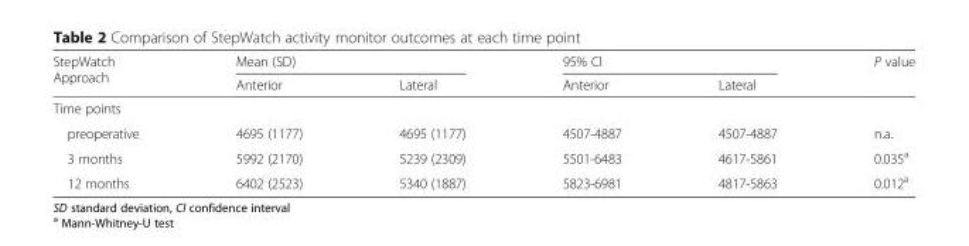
<table><thead><tr><td rowspan="2">StepWatch Approach</td><td colspan="2">Mean (SD)</td><td colspan="2">95% Cl</td><td rowspan="2">P value</td></tr><tr><td>Anterior</td><td>Lateral</td><td>Anterior</td><td>Lateral</td></tr></thead><tbody><tr><td colspan="6">Time points</td></tr><tr><td>preoperative</td><td>4695 (1177)</td><td>4695 (1177)</td><td>4507-4887</td><td>4507-4887</td><td>n.a.</td></tr><tr><td>3 months</td><td>5992 (2170)</td><td>5239 (2309)</td><td>5501-6483</td><td>4617-5861</td><td>0.035<sup>a</sup></td></tr><tr><td>12 months</td><td>6402 (2523)</td><td>5340 (1887)</td><td>5823-6981</td><td>4817-5863</td><td>0.012<sup>a</sup></td></tr></tbody></table>